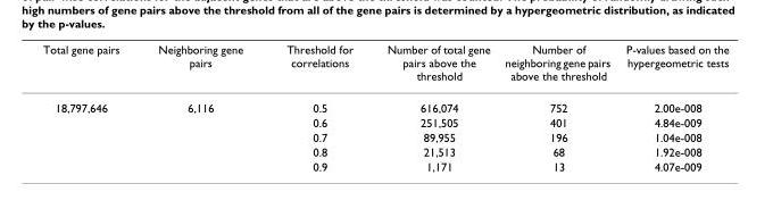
<table><thead><tr><td>Total gene pairs</td><td>Neighboring gene pairs</td><td>Threshold for correlations</td><td>Number of total gene pairs above the threshold</td><td>Number of neighboring gene pairs above the threshold</td><td>P-values based on the hypergeometric tests</td></tr></thead><tbody><tr><td rowspan="5">18,797,646</td><td>6,116</td><td>0.5</td><td>616,074</td><td>752</td><td>2.00e-008</td></tr><tr><td></td><td>0.6</td><td>251,505</td><td>401</td><td>4.84e-009</td></tr><tr><td></td><td>0.7</td><td>89,955</td><td>196</td><td>1.04e-008</td></tr><tr><td></td><td>0.8</td><td>21,513</td><td>68</td><td>1.92e-008</td></tr><tr><td></td><td>0.9</td><td>1,171</td><td>13</td><td>4.07e-009</td></tr></tbody></table>